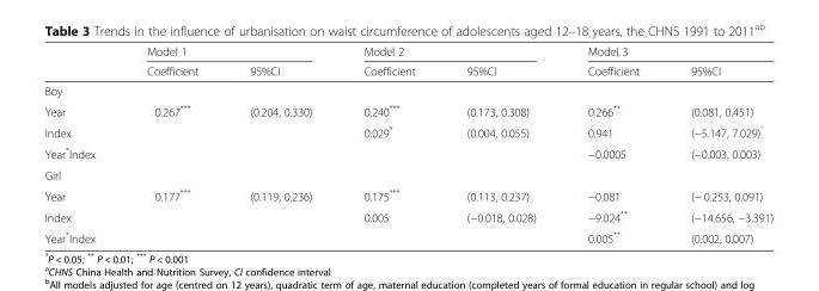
<table><thead><tr><td rowspan="2"></td><td colspan="2">Model 1</td><td colspan="2">Model 2</td><td colspan="2">Model 3</td></tr><tr><td>Coefficient</td><td>95%CI</td><td>Coefficient</td><td>95%CI</td><td>Coefficient</td><td>95%CI</td></tr></thead><tbody><tr><td colspan="7">Boy</td></tr><tr><td>Year</td><td>0.267***</td><td>(0.204, 0.330)</td><td>0.240***</td><td>(0.173, 0.308)</td><td>0.266**</td><td>(0.081, 0.451)</td></tr><tr><td>Index</td><td></td><td></td><td>0.029*</td><td>(0.004, 0.055)</td><td>0.941</td><td>(−5.147, 7.029)</td></tr><tr><td>Year*Index</td><td></td><td></td><td></td><td></td><td>−0.0005</td><td>(−0.003, 0.003)</td></tr><tr><td colspan="7">Girl</td></tr><tr><td>Year</td><td>0.177***</td><td>(0.119, 0.236)</td><td>0.175***</td><td>(0.113, 0.237)</td><td>−0.081</td><td>(− 0.253, 0.091)</td></tr><tr><td>Index</td><td></td><td></td><td>0.005</td><td>(−0.018, 0.028)</td><td>−9.024**</td><td>(−14.656, −3.391)</td></tr><tr><td>Year*Index</td><td></td><td></td><td></td><td></td><td>0.005**</td><td>(0.002, 0.007)</td></tr></tbody></table>